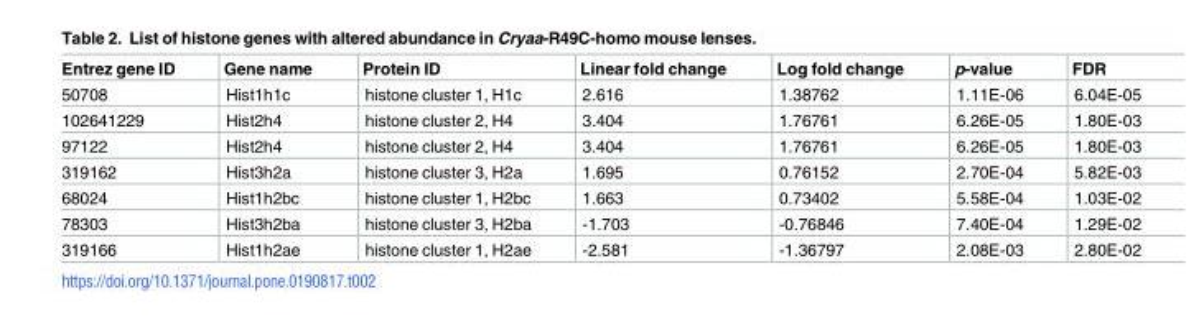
<table><thead><tr><td>Entrez gene ID</td><td>Gene name</td><td>Protein ID</td><td>Linear fold change</td><td>Log fold change</td><td>p-value</td><td>FDR</td></tr></thead><tbody><tr><td>50708</td><td>Hist1h1c</td><td>histone cluster 1, H1c</td><td>2.616</td><td>1.38762</td><td>1.11E-06</td><td>6.04E-05</td></tr><tr><td>102641229</td><td>Hist2h4</td><td>histone cluster 2, H4</td><td>3.404</td><td>1.76761</td><td>6.26E-05</td><td>1.80E-03</td></tr><tr><td>97122</td><td>Hist2h4</td><td>histone cluster 2, H4</td><td>3.404</td><td>1.76761</td><td>6.26E-05</td><td>1.80E-03</td></tr><tr><td>319162</td><td>Hist3h2a</td><td>histone cluster 3, H2a</td><td>1.695</td><td>0.76152</td><td>2.70E-04</td><td>5.82E-03</td></tr><tr><td>68024</td><td>Hist1h2bc</td><td>histone cluster 1, H2bc</td><td>1.663</td><td>0.73402</td><td>5.58E-04</td><td>1.03E-02</td></tr><tr><td>78303</td><td>Hist3h2ba</td><td>histone cluster 3, H2ba</td><td>-1.703</td><td>-0.76846</td><td>7.40E-04</td><td>1.29E-02</td></tr><tr><td>319166</td><td>Hist1h2ae</td><td>histone cluster 1, H2ae</td><td>-2.581</td><td>-1.36797</td><td>2.08E-03</td><td>2.80E-02</td></tr></tbody></table>